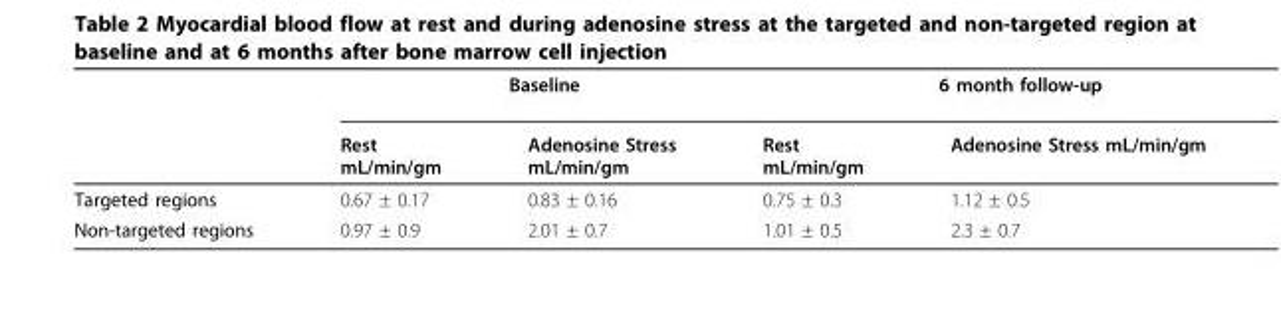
<table><thead><tr><td rowspan="2"></td><td colspan="2">Baseline</td><td colspan="2">6 month follow-up</td></tr><tr><td>Rest mL/min/gm</td><td>Adenosine Stress mL/min/gm</td><td>Rest mL/min/gm</td><td>Adenosine Stress mL/min/gm</td></tr></thead><tbody><tr><td>Targeted regions</td><td>0.67 ± 0.17</td><td>0.83 ± 0.16</td><td>0.75 ± 0.3</td><td>1.12 ± 0.5</td></tr><tr><td>Non-targeted regions</td><td>0.97 ± 0.9</td><td>2.01 ± 0.7</td><td>1.01 ± 0.5</td><td>2.3 ± 0.7</td></tr></tbody></table>